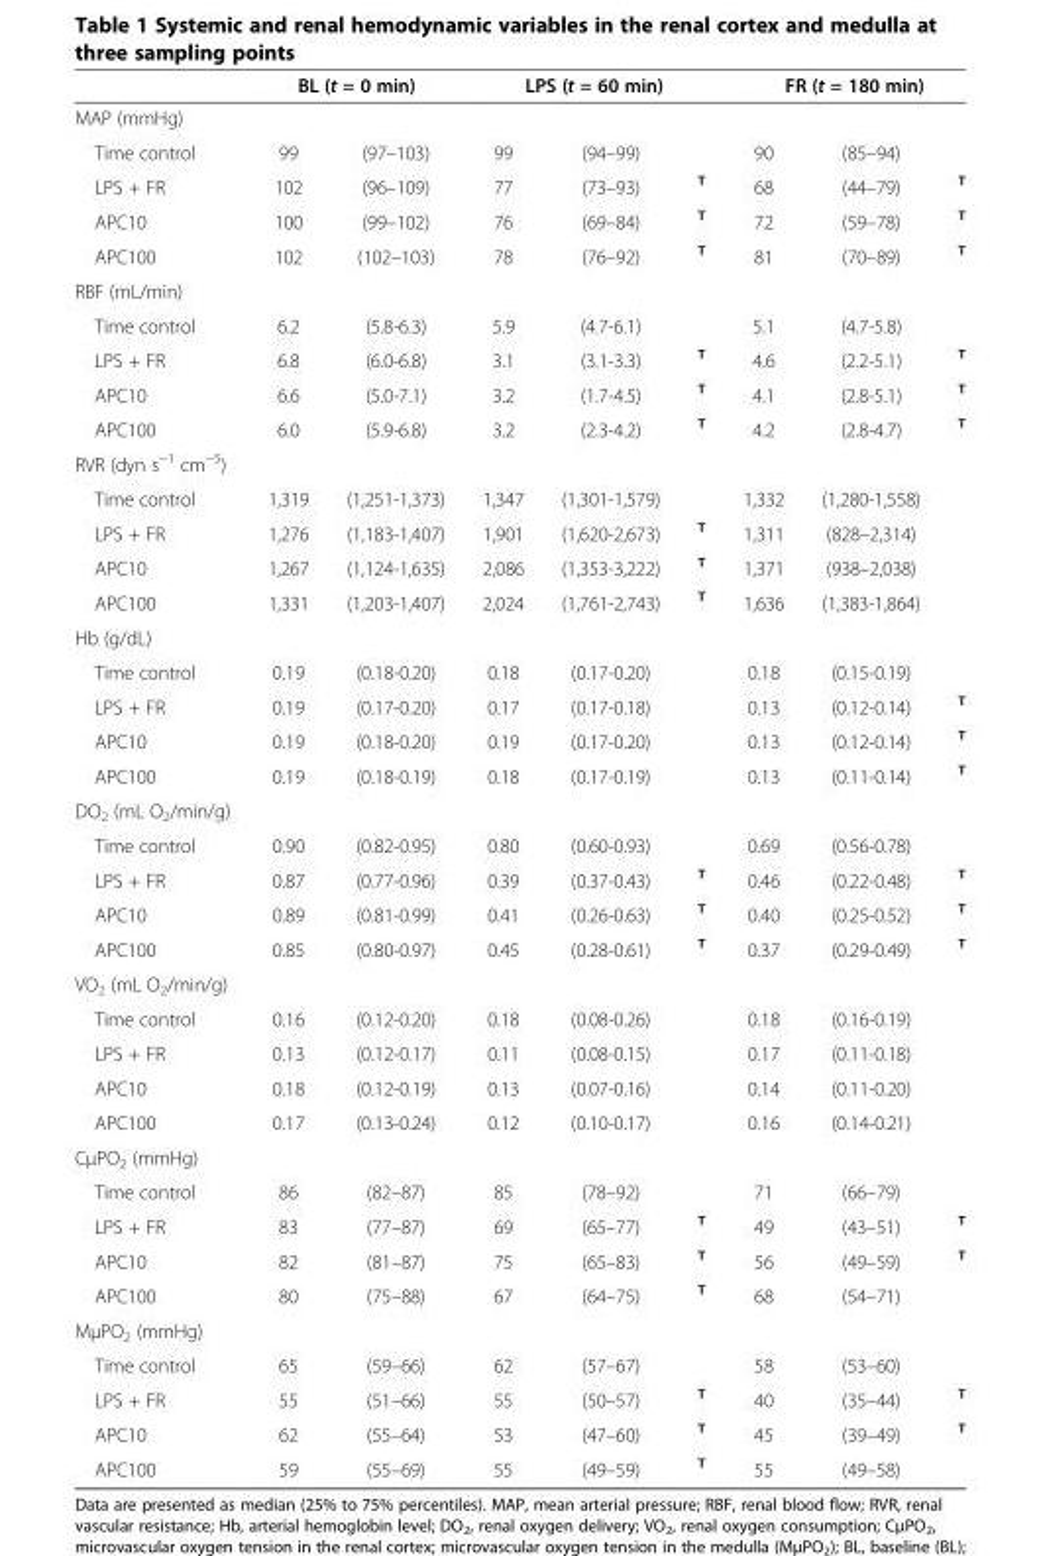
<table><thead><tr><td rowspan="2">MAP (mmHg)</td><td colspan="2">BL (t = 0 min)</td><td colspan="3">LPS (t = 60 min)</td><td colspan="3">FR (t = 180 min)</td></tr><tr><td></td><td></td><td></td><td></td><td></td><td></td><td></td><td></td></tr></thead><tbody><tr><td>Time control</td><td>99</td><td>(97–103)</td><td>99</td><td>(94–99)</td><td></td><td>90</td><td>(85–94)</td><td></td></tr><tr><td>LPS + FR</td><td>102</td><td>(96–109)</td><td>77</td><td>(73–93)</td><td><sup>T</sup></td><td>68</td><td>(44–79)</td><td><sup>T</sup></td></tr><tr><td>APC10</td><td>100</td><td>(99–102)</td><td>76</td><td>(69–84)</td><td><sup>T</sup></td><td>72</td><td>(59–78)</td><td><sup>T</sup></td></tr><tr><td>APC100</td><td>102</td><td>(102–103)</td><td>78</td><td>(76–92)</td><td><sup>T</sup></td><td>81</td><td>(70–89)</td><td><sup>T</sup></td></tr><tr><td colspan="9">RBF (mL/min)</td></tr><tr><td>Time control</td><td>6.2</td><td>(5.8-6.3)</td><td>5.9</td><td>(4.7-6.1)</td><td></td><td>5.1</td><td>(4.7-5.8)</td><td></td></tr><tr><td>LPS + FR</td><td>6.8</td><td>(6.0-6.8)</td><td>3.1</td><td>(3.1-3.3)</td><td><sup>T</sup></td><td>4.6</td><td>(2.2-5.1)</td><td><sup>T</sup></td></tr><tr><td>APC10</td><td>6.6</td><td>(5.0-7.1)</td><td>3.2</td><td>(1.7-4.5)</td><td><sup>T</sup></td><td>4.1</td><td>(2.8-5.1)</td><td><sup>T</sup></td></tr><tr><td>APC100</td><td>6.0</td><td>(5.9-6.8)</td><td>3.2</td><td>(2.3-4.2)</td><td><sup>T</sup></td><td>4.2</td><td>(2.8-4.7)</td><td><sup>T</sup></td></tr><tr><td colspan="9">RVR (dyn s<sup>−1</sup> cm<sup>−5</sup>)</td></tr><tr><td>Time control</td><td>1,319</td><td>(1,251-1,373)</td><td>1,347</td><td>(1,301-1,579)</td><td></td><td>1,332</td><td>(1,280-1,558)</td><td></td></tr><tr><td>LPS + FR</td><td>1,276</td><td>(1,183-1,407)</td><td>1,901</td><td>(1,620-2,673)</td><td><sup>T</sup></td><td>1,311</td><td>(828–2,314)</td><td></td></tr><tr><td>APC10</td><td>1,267</td><td>(1,124-1,635)</td><td>2,086</td><td>(1,353-3,222)</td><td><sup>T</sup></td><td>1,371</td><td>(938–2,038)</td><td></td></tr><tr><td>APC100</td><td>1,331</td><td>(1,203-1,407)</td><td>2,024</td><td>(1,761-2,743)</td><td><sup>T</sup></td><td>1,636</td><td>(1,383-1,864)</td><td></td></tr><tr><td colspan="9">Hb (g/dL)</td></tr><tr><td>Time control</td><td>0.19</td><td>(0.18-0.20)</td><td>0.18</td><td>(0.17-0.20)</td><td></td><td>0.18</td><td>(0.15-0.19)</td><td></td></tr><tr><td>LPS + FR</td><td>0.19</td><td>(0.17-0.20)</td><td>0.17</td><td>(0.17-0.18)</td><td></td><td>0.13</td><td>(0.12-0.14)</td><td><sup>T</sup></td></tr><tr><td>APC10</td><td>0.19</td><td>(0.18-0.20)</td><td>0.19</td><td>(0.17-0.20)</td><td></td><td>0.13</td><td>(0.12-0.14)</td><td><sup>T</sup></td></tr><tr><td>APC100</td><td>0.19</td><td>(0.18-0.19)</td><td>0.18</td><td>(0.17-0.19)</td><td></td><td>0.13</td><td>(0.11-0.14)</td><td><sup>T</sup></td></tr><tr><td colspan="9">DO<sub>2</sub> (mL O<sub>2</sub>/min/g)</td></tr><tr><td>Time control</td><td>0.90</td><td>(0.82-0.95)</td><td>0.80</td><td>(0.60-0.93)</td><td></td><td>0.69</td><td>(0.56-0.78)</td><td></td></tr><tr><td>LPS + FR</td><td>0.87</td><td>(0.77-0.96)</td><td>0.39</td><td>(0.37-0.43)</td><td><sup>T</sup></td><td>0.46</td><td>(0.22-0.48)</td><td><sup>T</sup></td></tr><tr><td>APC10</td><td>0.89</td><td>(0.81-0.99)</td><td>0.41</td><td>(0.26-0.63)</td><td><sup>T</sup></td><td>0.40</td><td>(0.25-0.52)</td><td><sup>T</sup></td></tr><tr><td>APC100</td><td>0.85</td><td>(0.80-0.97)</td><td>0.45</td><td>(0.28-0.61)</td><td><sup>T</sup></td><td>0.37</td><td>(0.29-0.49)</td><td><sup>T</sup></td></tr><tr><td colspan="9">VO<sub>2</sub> (mL O<sub>2</sub>/min/g)</td></tr><tr><td>Time control</td><td>0.16</td><td>(0.12-0.20)</td><td>0.18</td><td>(0.08-0.26)</td><td></td><td>0.18</td><td>(0.16-0.19)</td><td></td></tr><tr><td>LPS + FR</td><td>0.13</td><td>(0.12-0.17)</td><td>0.11</td><td>(0.08-0.15)</td><td></td><td>0.17</td><td>(0.11-0.18)</td><td></td></tr><tr><td>APC10</td><td>0.18</td><td>(0.12-0.19)</td><td>0.13</td><td>(0.07-0.16)</td><td></td><td>0.14</td><td>(0.11-0.20)</td><td></td></tr><tr><td>APC100</td><td>0.17</td><td>(0.13-0.24)</td><td>0.12</td><td>(0.10-0.17)</td><td></td><td>0.16</td><td>(0.14-0.21)</td><td></td></tr><tr><td colspan="9">CμPO<sub>2</sub> (mmHg)</td></tr><tr><td>Time control</td><td>86</td><td>(82–87)</td><td>85</td><td>(78–92)</td><td></td><td>71</td><td>(66–79)</td><td></td></tr><tr><td>LPS + FR</td><td>83</td><td>(77–87)</td><td>69</td><td>(65–77)</td><td><sup>T</sup></td><td>49</td><td>(43–51)</td><td><sup>T</sup></td></tr><tr><td>APC10</td><td>82</td><td>(81–87)</td><td>75</td><td>(65–83)</td><td><sup>T</sup></td><td>56</td><td>(49–59)</td><td><sup>T</sup></td></tr><tr><td>APC100</td><td>80</td><td>(75–88)</td><td>67</td><td>(64–75)</td><td><sup>T</sup></td><td>68</td><td>(54–71)</td><td></td></tr><tr><td colspan="9">MμPO<sub>2</sub> (mmHg)</td></tr><tr><td>Time control</td><td>65</td><td>(59–66)</td><td>62</td><td>(57–67)</td><td></td><td>58</td><td>(53–60)</td><td></td></tr><tr><td>LPS + FR</td><td>55</td><td>(51–66)</td><td>55</td><td>(50–57)</td><td><sup>T</sup></td><td>40</td><td>(35–44)</td><td><sup>T</sup></td></tr><tr><td>APC10</td><td>62</td><td>(55–64)</td><td>53</td><td>(47–60)</td><td><sup>T</sup></td><td>45</td><td>(39–49)</td><td><sup>T</sup></td></tr><tr><td>APC100</td><td>59</td><td>(55–69)</td><td>55</td><td>(49–59)</td><td><sup>T</sup></td><td>55</td><td>(49–58)</td><td></td></tr></tbody></table>